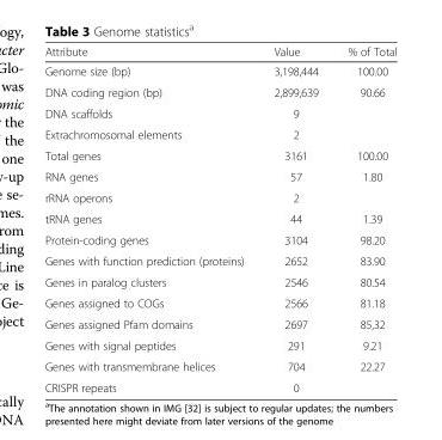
<table><thead><tr><td>Attribute</td><td>Value</td><td>% of Total</td></tr></thead><tbody><tr><td>Genome size (bp)</td><td>3,198,444</td><td>100.00</td></tr><tr><td>DNA coding region (bp)</td><td>2,899,639</td><td>90.66</td></tr><tr><td>DNA scaffolds</td><td>9</td><td></td></tr><tr><td>Extrachromosomal elements</td><td>2</td><td></td></tr><tr><td>Total genes</td><td>3161</td><td>100.00</td></tr><tr><td>RNA genes</td><td>57</td><td>1.80</td></tr><tr><td>rRNA operons</td><td>2</td><td></td></tr><tr><td>tRNA genes</td><td>44</td><td>1.39</td></tr><tr><td>Protein-coding genes</td><td>3104</td><td>98.20</td></tr><tr><td>Genes with function prediction (proteins)</td><td>2652</td><td>83.90</td></tr><tr><td>Genes in paralog clusters</td><td>2546</td><td>80.54</td></tr><tr><td>Genes assigned to COGs</td><td>2566</td><td>81.18</td></tr><tr><td>Genes assigned Pfam domains</td><td>2697</td><td>85,32</td></tr><tr><td>Genes with signal peptides</td><td>291</td><td>9.21</td></tr><tr><td>Genes with transmembrane helices</td><td>704</td><td>22.27</td></tr><tr><td>CRISPR repeats</td><td>0</td><td></td></tr></tbody></table>